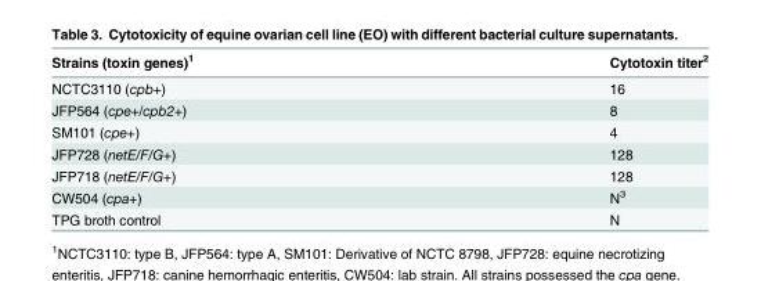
<table><thead><tr><td>Strains (toxin genes)<sup>1</sup></td><td>Cytotoxin titer<sup>2</sup></td></tr></thead><tbody><tr><td>NCTC3110 (cpb+)</td><td>16</td></tr><tr><td>JFP564 (cpe+/cpb2+)</td><td>8</td></tr><tr><td>SM101 (cpe+)</td><td>4</td></tr><tr><td>JFP728 (netE/F/G+)</td><td>128</td></tr><tr><td>JFP718 (netE/F/G+)</td><td>128</td></tr><tr><td>CW504 (cpa+)</td><td>N<sup>3</sup></td></tr><tr><td>TPG broth control</td><td>N</td></tr></tbody></table>